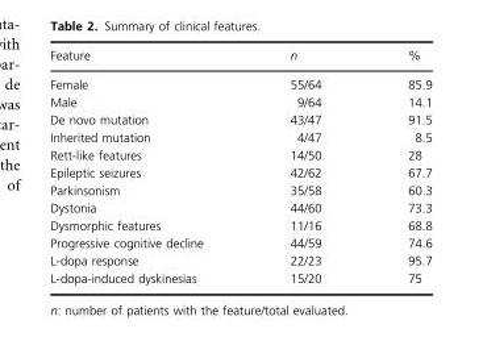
<table><thead><tr><td>Feature</td><td>n</td><td>%</td></tr></thead><tbody><tr><td>Female</td><td>55/64</td><td>85.9</td></tr><tr><td>Male</td><td>9/64</td><td>14.1</td></tr><tr><td>De novo mutation</td><td>43/47</td><td>91.5</td></tr><tr><td>Inherited mutation</td><td>4/47</td><td>8.5</td></tr><tr><td>Rett-like features</td><td>14/50</td><td>28</td></tr><tr><td>Epileptic seizures</td><td>42/62</td><td>67.7</td></tr><tr><td>Parkinsonism</td><td>35/58</td><td>60.3</td></tr><tr><td>Dystonia</td><td>44/60</td><td>73.3</td></tr><tr><td>Dysmorphic features</td><td>11/16</td><td>68.8</td></tr><tr><td>Progressive cognitive decline</td><td>44/59</td><td>74.6</td></tr><tr><td>L-dopa response</td><td>22/23</td><td>95.7</td></tr><tr><td>L-dopa-induced dyskinesias</td><td>15/20</td><td>75</td></tr></tbody></table>